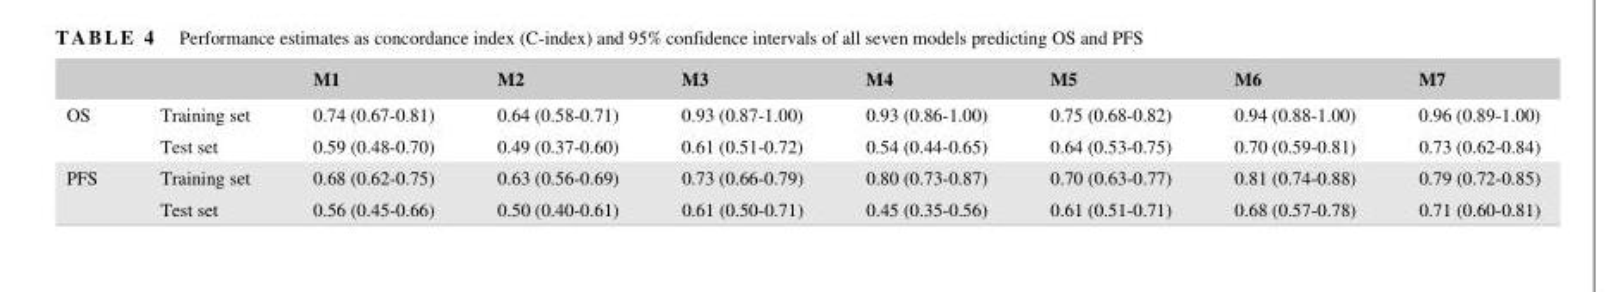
<table><thead><tr><td></td><td></td><td>M1</td><td>M2</td><td>M3</td><td>M4</td><td>M5</td><td>M6</td><td>M7</td></tr></thead><tbody><tr><td rowspan="2">OS</td><td>Training set</td><td>0.74 (0.67‐0.81)</td><td>0.64 (0.58‐0.71)</td><td>0.93 (0.87‐1.00)</td><td>0.93 (0.86‐1.00)</td><td>0.75 (0.68‐0.82)</td><td>0.94 (0.88‐1.00)</td><td>0.96 (0.89‐1.00)</td></tr><tr><td>Test set</td><td>0.59 (0.48‐0.70)</td><td>0.49 (0.37‐0.60)</td><td>0.61 (0.51‐0.72)</td><td>0.54 (0.44‐0.65)</td><td>0.64 (0.53‐0.75)</td><td>0.70 (0.59‐0.81)</td><td>0.73 (0.62‐0.84)</td></tr><tr><td rowspan="2">PFS</td><td>Training set</td><td>0.68 (0.62‐0.75)</td><td>0.63 (0.56‐0.69)</td><td>0.73 (0.66‐0.79)</td><td>0.80 (0.73‐0.87)</td><td>0.70 (0.63‐0.77)</td><td>0.81 (0.74‐0.88)</td><td>0.79 (0.72‐0.85)</td></tr><tr><td>Test set</td><td>0.56 (0.45‐0.66)</td><td>0.50 (0.40‐0.61)</td><td>0.61 (0.50‐0.71)</td><td>0.45 (0.35‐0.56)</td><td>0.61 (0.51‐0.71)</td><td>0.68 (0.57‐0.78)</td><td>0.71 (0.60‐0.81)</td></tr></tbody></table>